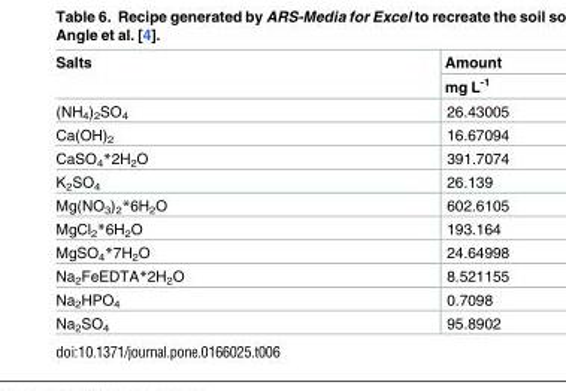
<table><thead><tr><td rowspan="2">Salts</td><td rowspan="2">Amount mg L<sup>-1</sup></td></tr><tr></tr></thead><tbody><tr><td>(NH<sub>4</sub>)<sub>2</sub>SO<sub>4</sub></td><td>26.43005</td></tr><tr><td>Ca(OH)<sub>2</sub></td><td>16.67094</td></tr><tr><td>CaSO<sub>4</sub>*2H<sub>2</sub>O</td><td>391.7074</td></tr><tr><td>K<sub>2</sub>SO<sub>4</sub></td><td>26.139</td></tr><tr><td>Mg(NO<sub>3</sub>)<sub>2</sub>*6H<sub>2</sub>O</td><td>602.6105</td></tr><tr><td>MgCl<sub>2</sub>*6H<sub>2</sub>O</td><td>193.164</td></tr><tr><td>MgSO<sub>4</sub>*7H<sub>2</sub>O</td><td>24.64998</td></tr><tr><td>Na<sub>2</sub>FeEDTA*2H<sub>2</sub>O</td><td>8.521155</td></tr><tr><td>Na<sub>2</sub>HPO<sub>4</sub></td><td>0.7098</td></tr><tr><td>Na<sub>2</sub>SO<sub>4</sub></td><td>95.8902</td></tr></tbody></table>